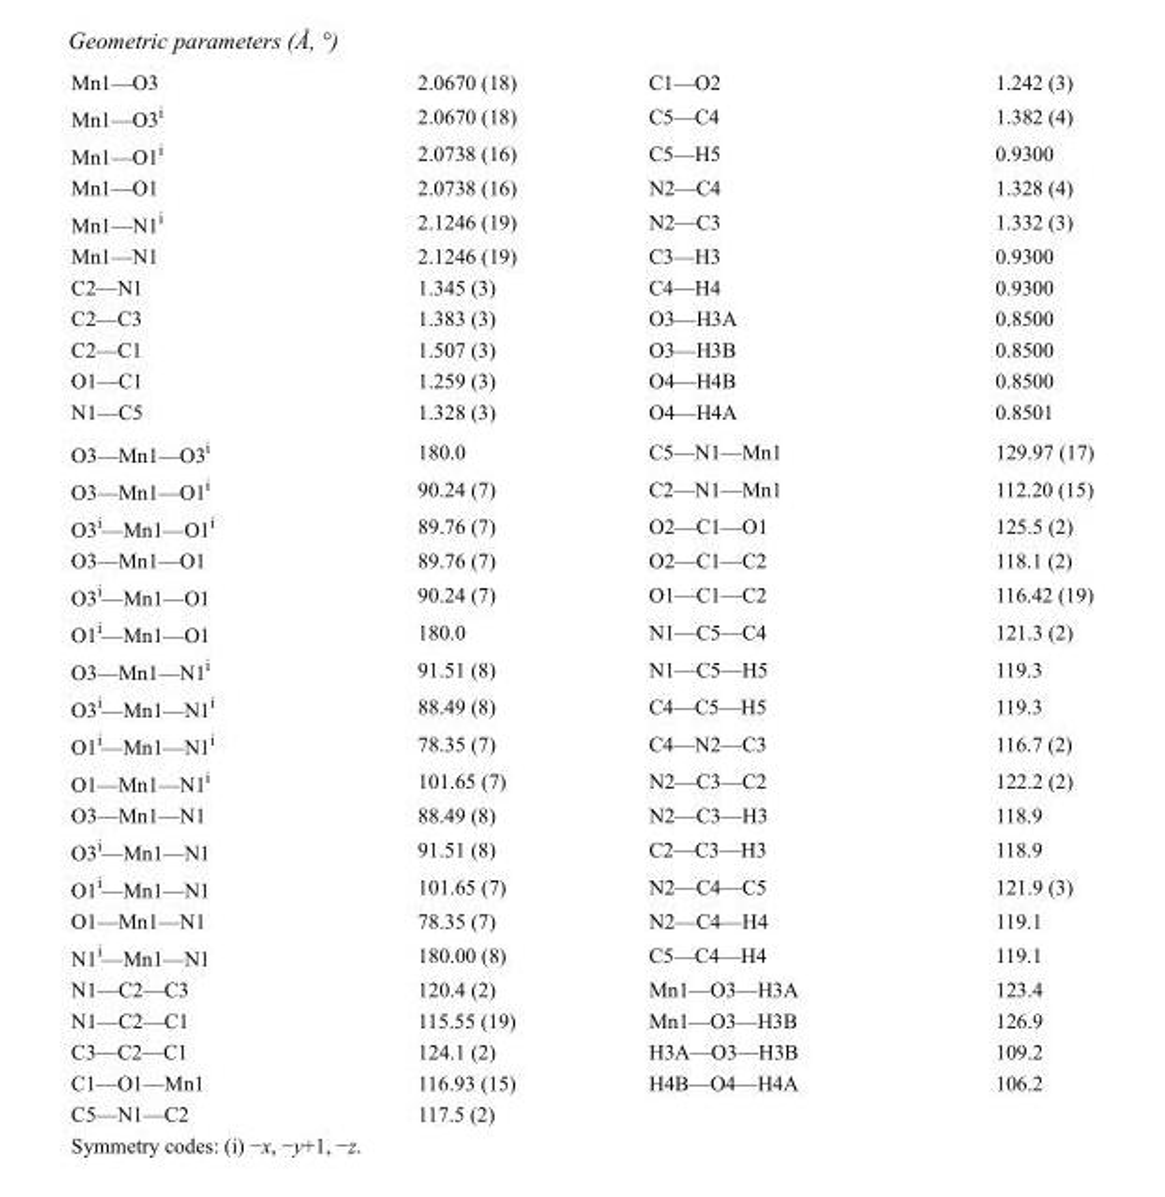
<table><tbody><tr><td>Mn1—O3</td><td>2.0670 (18)</td><td>C1—O2</td><td>1.242 (3)</td></tr><tr><td>Mn1—O3<sup>i</sup></td><td>2.0670 (18)</td><td>C5—C4</td><td>1.382 (4)</td></tr><tr><td>Mn1—O1<sup>i</sup></td><td>2.0738 (16)</td><td>C5—H5</td><td>0.9300</td></tr><tr><td>Mn1—O1</td><td>2.0738 (16)</td><td>N2—C4</td><td>1.328 (4)</td></tr><tr><td>Mn1—N1<sup>i</sup></td><td>2.1246 (19)</td><td>N2—C3</td><td>1.332 (3)</td></tr><tr><td>Mn1—N1</td><td>2.1246 (19)</td><td>C3—H3</td><td>0.9300</td></tr><tr><td>C2—N1</td><td>1.345 (3)</td><td>C4—H4</td><td>0.9300</td></tr><tr><td>C2—C3</td><td>1.383 (3)</td><td>O3—H3A</td><td>0.8500</td></tr><tr><td>C2—C1</td><td>1.507 (3)</td><td>O3—H3B</td><td>0.8500</td></tr><tr><td>O1—C1</td><td>1.259 (3)</td><td>O4—H4B</td><td>0.8500</td></tr><tr><td>N1—C5</td><td>1.328 (3)</td><td>O4—H4A</td><td>0.8501</td></tr><tr><td>O3—Mn1—O3<sup>i</sup></td><td>180.0</td><td>C5—N1—Mn1</td><td>129.97 (17)</td></tr><tr><td>O3—Mn1—O1<sup>i</sup></td><td>90.24 (7)</td><td>C2—N1—Mn1</td><td>112.20 (15)</td></tr><tr><td>O3<sup>i</sup>—Mn1—O1<sup>i</sup></td><td>89.76 (7)</td><td>O2—C1—O1</td><td>125.5 (2)</td></tr><tr><td>O3—Mn1—O1</td><td>89.76 (7)</td><td>O2—C1—C2</td><td>118.1 (2)</td></tr><tr><td>O3<sup>i</sup>—Mn1—O1</td><td>90.24 (7)</td><td>O1—C1—C2</td><td>116.42 (19)</td></tr><tr><td>O1<sup>i</sup>—Mn1—O1</td><td>180.0</td><td>N1—C5—C4</td><td>121.3 (2)</td></tr><tr><td>O3—Mn1—N1<sup>i</sup></td><td>91.51 (8)</td><td>N1—C5—H5</td><td>119.3</td></tr><tr><td>O3<sup>i</sup>—Mn1—N1<sup>i</sup></td><td>88.49 (8)</td><td>C4—C5—H5</td><td>119.3</td></tr><tr><td>O1<sup>i</sup>—Mn1—N1<sup>i</sup></td><td>78.35 (7)</td><td>C4—N2—C3</td><td>116.7 (2)</td></tr><tr><td>O1—Mn1—N1<sup>i</sup></td><td>101.65 (7)</td><td>N2—C3—C2</td><td>122.2 (2)</td></tr><tr><td>O3—Mn1—N1</td><td>88.49 (8)</td><td>N2—C3—H3</td><td>118.9</td></tr><tr><td>O3<sup>i</sup>—Mn1—N1</td><td>91.51 (8)</td><td>C2—C3—H3</td><td>118.9</td></tr><tr><td>O1<sup>i</sup>—Mn1—N1</td><td>101.65 (7)</td><td>N2—C4—C5</td><td>121.9 (3)</td></tr><tr><td>O1—Mn1—N1</td><td>78.35 (7)</td><td>N2—C4—H4</td><td>119.1</td></tr><tr><td>N1<sup>i</sup>—Mn1—N1</td><td>180.00 (8)</td><td>C5—C4—H4</td><td>119.1</td></tr><tr><td>N1—C2—C3</td><td>120.4 (2)</td><td>Mn1—O3—H3A</td><td>123.4</td></tr><tr><td>N1—C2—C1</td><td>115.55 (19)</td><td>Mn1—O3—H3B</td><td>126.9</td></tr><tr><td>C3—C2—C1</td><td>124.1 (2)</td><td>H3A—O3—H3B</td><td>109.2</td></tr><tr><td>C1—O1—Mn1</td><td>116.93 (15)</td><td>H4B—O4—H4A</td><td>106.2</td></tr><tr><td>C5—N1—C2</td><td>117.5 (2)</td><td></td><td></td></tr></tbody></table>